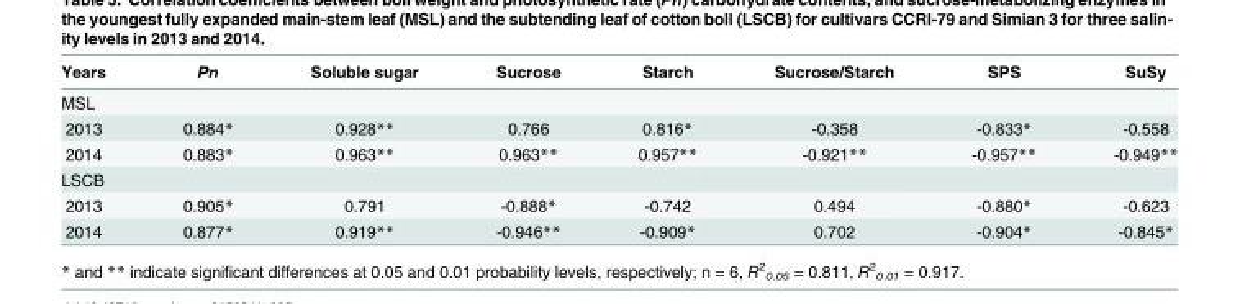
<table><thead><tr><td>Years</td><td>Pn</td><td>Soluble sugar</td><td>Sucrose</td><td>Starch</td><td>Sucrose/Starch</td><td>SPS</td><td>SuSy</td></tr></thead><tbody><tr><td colspan="8">MSL</td></tr><tr><td>2013</td><td>0.884*</td><td>0.928**</td><td>0.766</td><td>0.816*</td><td>-0.358</td><td>-0.833*</td><td>-0.558</td></tr><tr><td>2014</td><td>0.883*</td><td>0.963**</td><td>0.963**</td><td>0.957**</td><td>-0.921**</td><td>-0.957**</td><td>-0.949**</td></tr><tr><td colspan="8">LSCB</td></tr><tr><td>2013</td><td>0.905*</td><td>0.791</td><td>-0.888*</td><td>-0.742</td><td>0.494</td><td>-0.880*</td><td>-0.623</td></tr><tr><td>2014</td><td>0.877*</td><td>0.919**</td><td>-0.946**</td><td>-0.909*</td><td>0.702</td><td>-0.904*</td><td>-0.845*</td></tr></tbody></table>